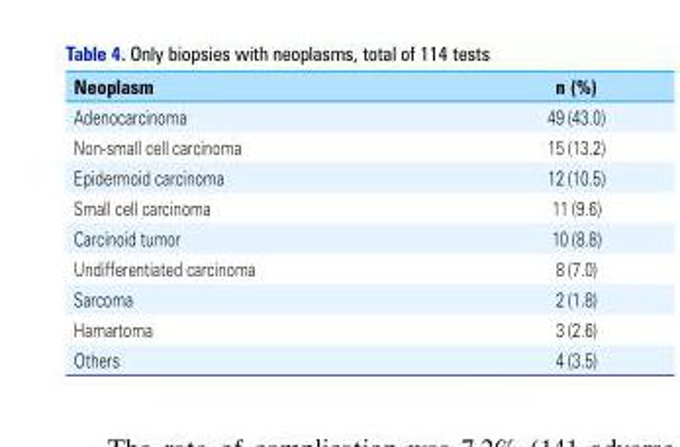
<table><thead><tr><td>Neoplasm</td><td>n (%)</td></tr></thead><tbody><tr><td>Adenocarcinoma</td><td>49 (43.0)</td></tr><tr><td>Non-small cell carcinoma</td><td>15 (13.2)</td></tr><tr><td>Epidermoid carcinoma</td><td>12 (10.5)</td></tr><tr><td>Small cell carcinoma</td><td>11 (9.6)</td></tr><tr><td>Carcinoid tumor</td><td>10 (8.8)</td></tr><tr><td>Undifferentiated carcinoma</td><td>8 (7.0)</td></tr><tr><td>Sarcoma</td><td>2 (1.8)</td></tr><tr><td>Hamartoma</td><td>3 (2.6)</td></tr><tr><td>Others</td><td>4 (3.5)</td></tr></tbody></table>